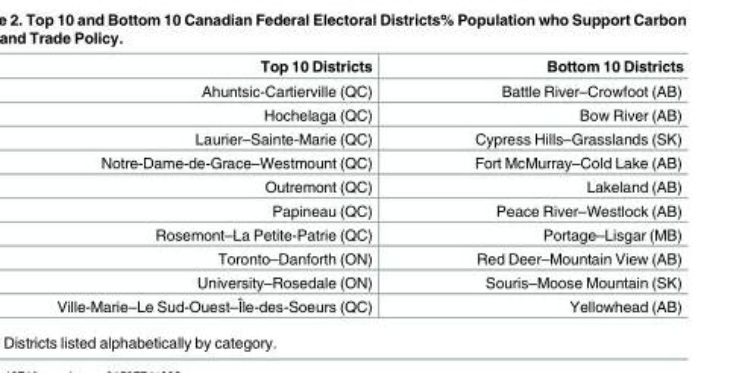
<table><thead><tr><td>Top 10 Districts</td><td>Bottom 10 Districts</td></tr></thead><tbody><tr><td>Ahuntsic-Cartierville (QC)</td><td>Battle River–Crowfoot (AB)</td></tr><tr><td>Hochelaga (QC)</td><td>Bow River (AB)</td></tr><tr><td>Laurier–Sainte-Marie (QC)</td><td>Cypress Hills–Grasslands (SK)</td></tr><tr><td>Notre-Dame-de-Grace–Westmount (QC)</td><td>Fort McMurray–Cold Lake (AB)</td></tr><tr><td>Outremont (QC)</td><td>Lakeland (AB)</td></tr><tr><td>Papineau (QC)</td><td>Peace River–Westlock (AB)</td></tr><tr><td>Rosemont–La Petite-Patrie (QC)</td><td>Portage–Lisgar (MB)</td></tr><tr><td>Toronto–Danforth (ON)</td><td>Red Deer–Mountain View (AB)</td></tr><tr><td>University–Rosedale (ON)</td><td>Souris–Moose Mountain (SK)</td></tr><tr><td>Ville-Marie–Le Sud-Ouest–Île-des-Soeurs (QC)</td><td>Yellowhead (AB)</td></tr></tbody></table>